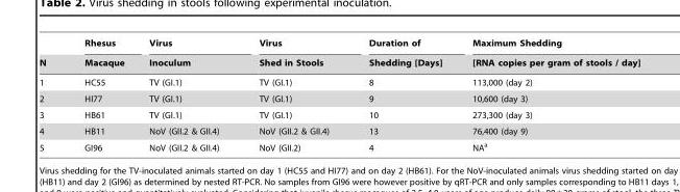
<table><thead><tr><td rowspan="2">N</td><td rowspan="2">Rhesus Macaque</td><td rowspan="2">Virus Inoculum</td><td rowspan="2">Virus Shed in Stools</td><td rowspan="2">Duration of Shedding [Days]</td><td rowspan="2">Maximum Shedding [RNA copies per gram of stools / day]</td></tr><tr></tr></thead><tbody><tr><td>1</td><td>HC55</td><td>TV (GI.1)</td><td>TV (GI.1)</td><td>8</td><td>113,000 (day 2)</td></tr><tr><td>2</td><td>HI77</td><td>TV (GI.1)</td><td>TV (GI.1)</td><td>9</td><td>10,600 (day 3)</td></tr><tr><td>3</td><td>HB61</td><td>TV (GI.1)</td><td>TV (GI.1)</td><td>10</td><td>273,300 (day 3)</td></tr><tr><td>4</td><td>HB11</td><td>NoV (GII.2 &amp; GII.4)</td><td>NoV (GII.2 &amp; GII.4)</td><td>13</td><td>76,400 (day 9)</td></tr><tr><td>5</td><td>GI96</td><td>NoV (GII.2 &amp; GII.4)</td><td>NoV (GII.2)</td><td>4</td><td>NA<sup>a</sup></td></tr></tbody></table>